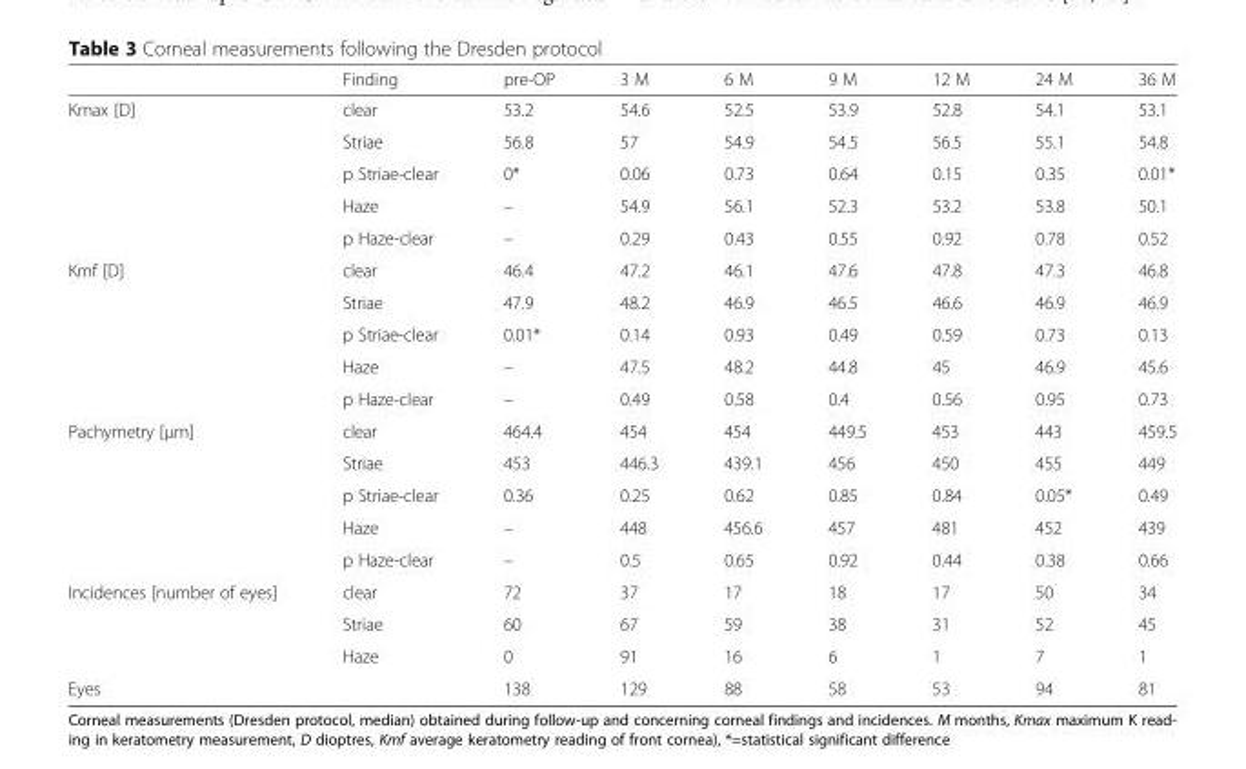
<table><thead><tr><td></td><td>Finding</td><td>pre-OP</td><td>3 M</td><td>6 M</td><td>9 M</td><td>12 M</td><td>24 M</td><td>36 M</td></tr></thead><tbody><tr><td rowspan="5">Kmax [D]</td><td>clear</td><td>53.2</td><td>54.6</td><td>52.5</td><td>53.9</td><td>52.8</td><td>54.1</td><td>53.1</td></tr><tr><td>Striae</td><td>56.8</td><td>57</td><td>54.9</td><td>54.5</td><td>56.5</td><td>55.1</td><td>54.8</td></tr><tr><td>p Striae-clear</td><td>0*</td><td>0.06</td><td>0.73</td><td>0.64</td><td>0.15</td><td>0.35</td><td>0.01*</td></tr><tr><td>Haze</td><td>–</td><td>54.9</td><td>56.1</td><td>52.3</td><td>53.2</td><td>53.8</td><td>50.1</td></tr><tr><td>p Haze-clear</td><td>–</td><td>0.29</td><td>0.43</td><td>0.55</td><td>0.92</td><td>0.78</td><td>0.52</td></tr><tr><td rowspan="5">Kmf [D]</td><td>clear</td><td>46.4</td><td>47.2</td><td>46.1</td><td>47.6</td><td>47.8</td><td>47.3</td><td>46.8</td></tr><tr><td>Striae</td><td>47.9</td><td>48.2</td><td>46.9</td><td>46.5</td><td>46.6</td><td>46.9</td><td>46.9</td></tr><tr><td>p Striae-clear</td><td>0.01*</td><td>0.14</td><td>0.93</td><td>0.49</td><td>0.59</td><td>0.73</td><td>0.13</td></tr><tr><td>Haze</td><td>–</td><td>47.5</td><td>48.2</td><td>44.8</td><td>45</td><td>46.9</td><td>45.6</td></tr><tr><td>p Haze-clear</td><td>–</td><td>0.49</td><td>0.58</td><td>0.4</td><td>0.56</td><td>0.95</td><td>0.73</td></tr><tr><td rowspan="5">Pachymetry [μm]</td><td>clear</td><td>464.4</td><td>454</td><td>454</td><td>449.5</td><td>453</td><td>443</td><td>459.5</td></tr><tr><td>Striae</td><td>453</td><td>446.3</td><td>439.1</td><td>456</td><td>450</td><td>455</td><td>449</td></tr><tr><td>p Striae-clear</td><td>0.36</td><td>0.25</td><td>0.62</td><td>0.85</td><td>0.84</td><td>0.05*</td><td>0.49</td></tr><tr><td>Haze</td><td>–</td><td>448</td><td>456.6</td><td>457</td><td>481</td><td>452</td><td>439</td></tr><tr><td>p Haze-clear</td><td>–</td><td>0.5</td><td>0.65</td><td>0.92</td><td>0.44</td><td>0.38</td><td>0.66</td></tr><tr><td rowspan="3">Incidences [number of eyes]</td><td>clear</td><td>72</td><td>37</td><td>17</td><td>18</td><td>17</td><td>50</td><td>34</td></tr><tr><td>Striae</td><td>60</td><td>67</td><td>59</td><td>38</td><td>31</td><td>52</td><td>45</td></tr><tr><td>Haze</td><td>0</td><td>91</td><td>16</td><td>6</td><td>1</td><td>7</td><td>1</td></tr><tr><td>Eyes</td><td></td><td>138</td><td>129</td><td>88</td><td>58</td><td>53</td><td>94</td><td>81</td></tr></tbody></table>